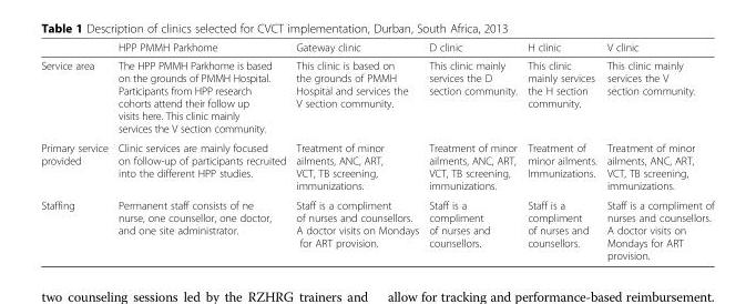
<table><thead><tr><td></td><td>HPP PMMH Parkhome</td><td>Gateway clinic</td><td>D clinic</td><td>H clinic</td><td>V clinic</td></tr></thead><tbody><tr><td>Service area</td><td>The HPP PMMH Parkhome is based on the grounds of PMMH Hospital. Participants from HPP research cohorts attend their follow up visits here. This clinic mainly services the V section community.</td><td>This clinic is based on the grounds of PMMH Hospital and services the V section community.</td><td>This clinic mainly services the D section community.</td><td>This clinic mainly services the H section community.</td><td>This clinic mainly services the V section community.</td></tr><tr><td>Primary service provided</td><td>Clinic services are mainly focused on follow-up of participants recruited into the different HPP studies.</td><td>Treatment of minor ailments, ANC, ART, VCT, TB screening, immunizations.</td><td>Treatment of minor ailments, ANC, ART, VCT, TB screening, immunizations.</td><td>Treatment of minor ailments. Immunizations.</td><td>Treatment of minor ailments, ANC, ART, VCT, TB screening, immunizations.</td></tr><tr><td>Staffing</td><td>Permanent staff consists of ne nurse, one counsellor, one doctor, and one site administrator.</td><td>Staff is a compliment of nurses and counsellors. A doctor visits on Mondays for ART provision.</td><td>Staff is a compliment of nurses and counsellors.</td><td>Staff is a compliment of nurses and counsellors.</td><td>Staff is a compliment of nurses and counsellors. A doctor visits on Mondays for ART provision.</td></tr></tbody></table>